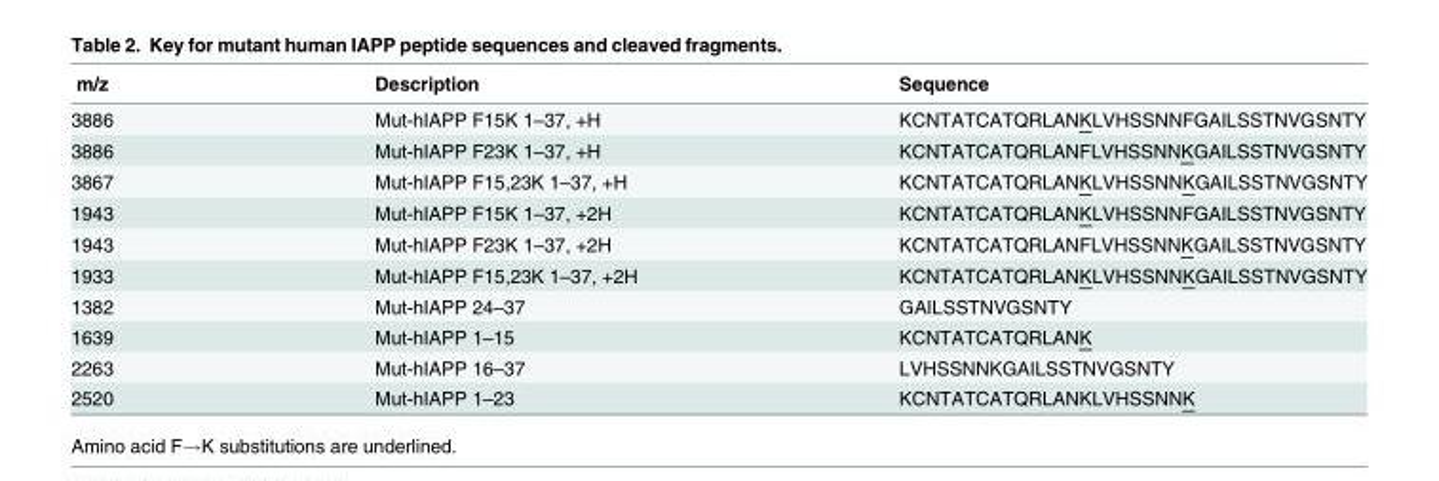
<table><thead><tr><td>m/z</td><td>Description</td><td>Sequence</td></tr></thead><tbody><tr><td>3886</td><td>Mut-hIAPP F15K 1–37, +H</td><td>KCNTATCATQRLANKLVHSSNNFGAILSSTNVGSNTY</td></tr><tr><td>3886</td><td>Mut-hIAPP F23K 1–37, +H</td><td>KCNTATCATQRLANFLVHSSNNKGAILSSTNVGSNTY</td></tr><tr><td>3867</td><td>Mut-hIAPP F15,23K 1–37, +H</td><td>KCNTATCATQRLANKLVHSSNNKGAILSSTNVGSNTY</td></tr><tr><td>1943</td><td>Mut-hIAPP F15K 1–37, +2H</td><td>KCNTATCATQRLANKLVHSSNNFGAILSSTNVGSNTY</td></tr><tr><td>1943</td><td>Mut-hIAPP F23K 1–37, +2H</td><td>KCNTATCATQRLANFLVHSSNNKGAILSSTNVGSNTY</td></tr><tr><td>1933</td><td>Mut-hIAPP F15,23K 1–37, +2H</td><td>KCNTATCATQRLANKLVHSSNNKGAILSSTNVGSNTY</td></tr><tr><td>1382</td><td>Mut-hIAPP 24–37</td><td>GAILSSTNVGSNTY</td></tr><tr><td>1639</td><td>Mut-hIAPP 1–15</td><td>KCNTATCATQRLANK</td></tr><tr><td>2263</td><td>Mut-hIAPP 16–37</td><td>LVHSSNNKGAILSSTNVGSNTY</td></tr><tr><td>2520</td><td>Mut-hIAPP 1–23</td><td>KCNTATCATQRLANKLVHSSNNK</td></tr></tbody></table>